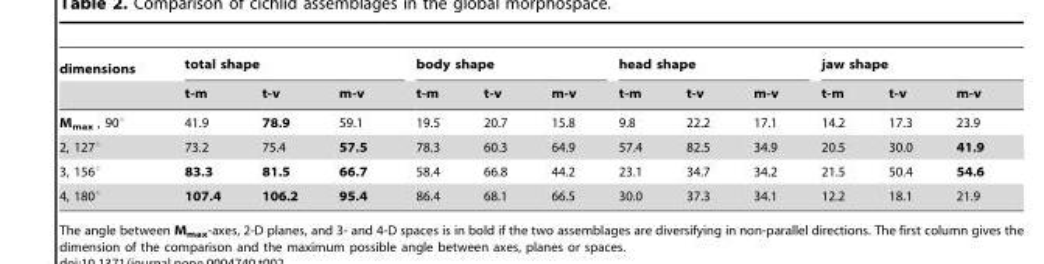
<table><thead><tr><td rowspan="2">dimensions</td><td colspan="3">total shape</td><td colspan="3">body shape</td><td colspan="3">head shape</td><td colspan="3">jaw shape</td></tr><tr><td>t-m</td><td>t-v</td><td>m-v</td><td>t-m</td><td>t-v</td><td>m-v</td><td>t-m</td><td>t-v</td><td>m-v</td><td>t-m</td><td>t-v</td><td>m-v</td></tr></thead><tbody><tr><td>M<sub>max</sub> , 90°</td><td>41.9</td><td>78.9</td><td>59.1</td><td>19.5</td><td>20.7</td><td>15.8</td><td>9.8</td><td>22.2</td><td>17.1</td><td>14.2</td><td>17.3</td><td>23.9</td></tr><tr><td>2, 127°</td><td>73.2</td><td>75.4</td><td>57.5</td><td>78.3</td><td>60.3</td><td>64.9</td><td>57.4</td><td>82.5</td><td>34.9</td><td>20.5</td><td>30.0</td><td>41.9</td></tr><tr><td>3, 156°</td><td>83.3</td><td>81.5</td><td>66.7</td><td>58.4</td><td>66.8</td><td>44.2</td><td>23.1</td><td>34.7</td><td>34.2</td><td>21.5</td><td>50.4</td><td>54.6</td></tr><tr><td>4, 180°</td><td>107.4</td><td>106.2</td><td>95.4</td><td>86.4</td><td>68.1</td><td>66.5</td><td>30.0</td><td>37.3</td><td>34.1</td><td>12.2</td><td>18.1</td><td>21.9</td></tr></tbody></table>